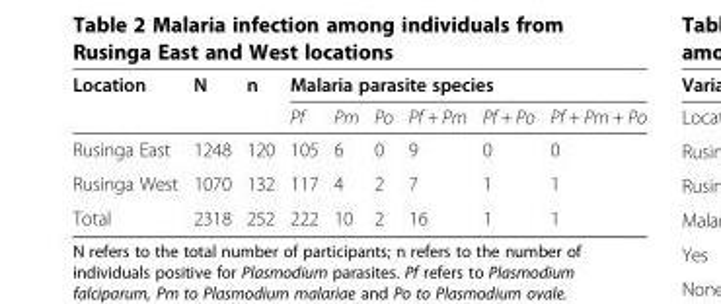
<table><thead><tr><td rowspan="2">Location</td><td rowspan="2">N</td><td rowspan="2">n</td><td colspan="6">Malaria parasite species</td></tr><tr><td>Pf</td><td>Pm</td><td>Po</td><td>Pf + Pm</td><td>Pf + Po</td><td>Pf + Pm + Po</td></tr></thead><tbody><tr><td>Rusinga East</td><td>1248</td><td>120</td><td>105</td><td>6</td><td>0</td><td>9</td><td>0</td><td>0</td></tr><tr><td>Rusinga West</td><td>1070</td><td>132</td><td>117</td><td>4</td><td>2</td><td>7</td><td>1</td><td>1</td></tr><tr><td>Total</td><td>2318</td><td>252</td><td>222</td><td>10</td><td>2</td><td>16</td><td>1</td><td>1</td></tr></tbody></table>